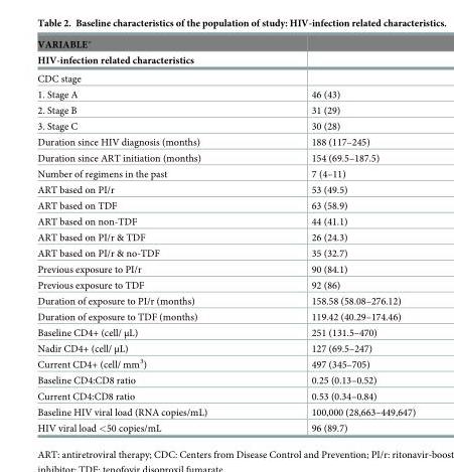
<table><thead><tr><td rowspan="2">VARIABLE* HIV-infection related characteristics</td><td rowspan="2"></td></tr><tr></tr></thead><tbody><tr><td colspan="2">CDC stage</td></tr><tr><td>1. Stage A</td><td>46 (43)</td></tr><tr><td>2. Stage B</td><td>31 (29)</td></tr><tr><td>3. Stage C</td><td>30 (28)</td></tr><tr><td>Duration since HIV diagnosis (months)</td><td>188 (117–245)</td></tr><tr><td>Duration since ART initiation (months)</td><td>154 (69.5–187.5)</td></tr><tr><td>Number of regimens in the past</td><td>7 (4–11)</td></tr><tr><td>ART based on PI/r</td><td>53 (49.5)</td></tr><tr><td>ART based on TDF</td><td>63 (58.9)</td></tr><tr><td>ART based on non-TDF</td><td>44 (41.1)</td></tr><tr><td>ART based on PI/r &amp; TDF</td><td>26 (24.3)</td></tr><tr><td>ART based on PI/r &amp; no-TDF</td><td>35 (32.7)</td></tr><tr><td>Previous exposure to PI/r</td><td>90 (84.1)</td></tr><tr><td>Previous exposure to TDF</td><td>92 (86)</td></tr><tr><td>Duration of exposure to PI/r (months)</td><td>158.58 (58.08–276.12)</td></tr><tr><td>Duration of exposure to TDF (months)</td><td>119.42 (40.29–174.46)</td></tr><tr><td>Baseline CD4+ (cell/ μL)</td><td>251 (131.5–470)</td></tr><tr><td>Nadir CD4+ (cell/ μL)</td><td>127 (69.5–247)</td></tr><tr><td>Current CD4+ (cell/ mm<sup>3</sup>)</td><td>497 (345–705)</td></tr><tr><td>Baseline CD4:CD8 ratio</td><td>0.25 (0.13–0.52)</td></tr><tr><td>Current CD4:CD8 ratio</td><td>0.53 (0.34–0.84)</td></tr><tr><td>Baseline HIV viral load (RNA copies/mL)</td><td>100,000 (28,663–449,647)</td></tr><tr><td>HIV viral load &lt;50 copies/mL</td><td>96 (89.7)</td></tr></tbody></table>